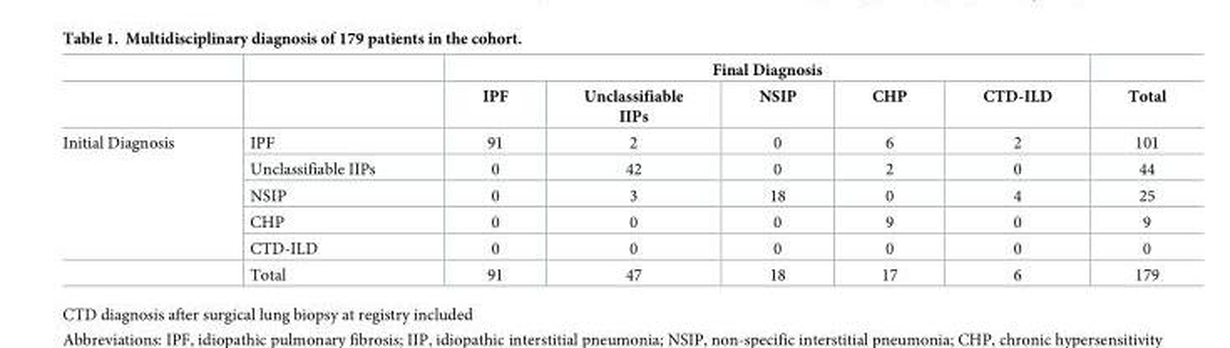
<table><thead><tr><td rowspan="2"></td><td rowspan="2"></td><td colspan="5">Final Diagnosis</td><td rowspan="2">Total</td></tr><tr><td>IPF</td><td>Unclassifiable IIPs</td><td>NSIP</td><td>CHP</td><td>CTD-ILD</td></tr></thead><tbody><tr><td rowspan="6">Initial Diagnosis</td><td>IPF</td><td>91</td><td>2</td><td>0</td><td>6</td><td>2</td><td>101</td></tr><tr><td>Unclassifiable IIPs</td><td>0</td><td>42</td><td>0</td><td>2</td><td>0</td><td>44</td></tr><tr><td>NSIP</td><td>0</td><td>3</td><td>18</td><td>0</td><td>4</td><td>25</td></tr><tr><td>CHP</td><td>0</td><td>0</td><td>0</td><td>9</td><td>0</td><td>9</td></tr><tr><td>CTD-ILD</td><td>0</td><td>0</td><td>0</td><td>0</td><td>0</td><td>0</td></tr><tr><td>Total</td><td>91</td><td>47</td><td>18</td><td>17</td><td>6</td><td>179</td></tr></tbody></table>